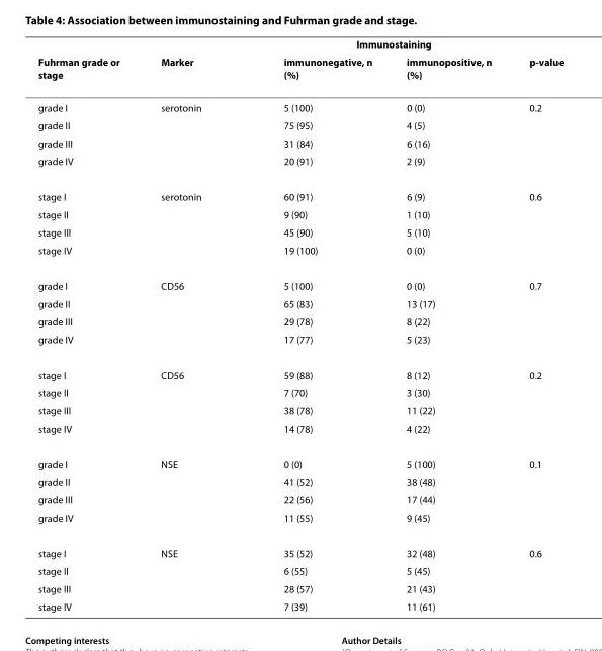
<table><thead><tr><td rowspan="2">Fuhrman grade or stage</td><td rowspan="2">Marker</td><td colspan="2">Immunostaining</td><td rowspan="2">p-value</td></tr><tr><td>immunonegative, n (%)</td><td>immunopositive, n (%)</td></tr></thead><tbody><tr><td>grade I</td><td>serotonin</td><td>5 (100)</td><td>0 (0)</td><td>0.2</td></tr><tr><td>grade II</td><td></td><td>75 (95)</td><td>4 (5)</td><td></td></tr><tr><td>grade III</td><td></td><td>31 (84)</td><td>6 (16)</td><td></td></tr><tr><td>grade IV</td><td></td><td>20 (91)</td><td>2 (9)</td><td></td></tr><tr><td>stage I</td><td>serotonin</td><td>60 (91)</td><td>6 (9)</td><td>0.6</td></tr><tr><td>stage II</td><td></td><td>9 (90)</td><td>1 (10)</td><td></td></tr><tr><td>stage III</td><td></td><td>45 (90)</td><td>5 (10)</td><td></td></tr><tr><td>stage IV</td><td></td><td>19 (100)</td><td>0 (0)</td><td></td></tr><tr><td>grade I</td><td>CD56</td><td>5 (100)</td><td>0 (0)</td><td>0.7</td></tr><tr><td>grade II</td><td></td><td>65 (83)</td><td>13 (17)</td><td></td></tr><tr><td>grade III</td><td></td><td>29 (78)</td><td>8 (22)</td><td></td></tr><tr><td>grade IV</td><td></td><td>17 (77)</td><td>5 (23)</td><td></td></tr><tr><td>stage I</td><td>CD56</td><td>59 (88)</td><td>8 (12)</td><td>0.2</td></tr><tr><td>stage II</td><td></td><td>7 (70)</td><td>3 (30)</td><td></td></tr><tr><td>stage III</td><td></td><td>38 (78)</td><td>11 (22)</td><td></td></tr><tr><td>stage IV</td><td></td><td>14 (78)</td><td>4 (22)</td><td></td></tr><tr><td>grade I</td><td>NSE</td><td>0 (0)</td><td>5 (100)</td><td>0.1</td></tr><tr><td>grade II</td><td></td><td>41 (52)</td><td>38 (48)</td><td></td></tr><tr><td>grade III</td><td></td><td>22 (56)</td><td>17 (44)</td><td></td></tr><tr><td>grade IV</td><td></td><td>11 (55)</td><td>9 (45)</td><td></td></tr><tr><td>stage I</td><td>NSE</td><td>35 (52)</td><td>32 (48)</td><td>0.6</td></tr><tr><td>stage II</td><td></td><td>6 (55)</td><td>5 (45)</td><td></td></tr><tr><td>stage III</td><td></td><td>28 (57)</td><td>21 (43)</td><td></td></tr><tr><td>stage IV</td><td></td><td>7 (39)</td><td>11 (61)</td><td></td></tr></tbody></table>